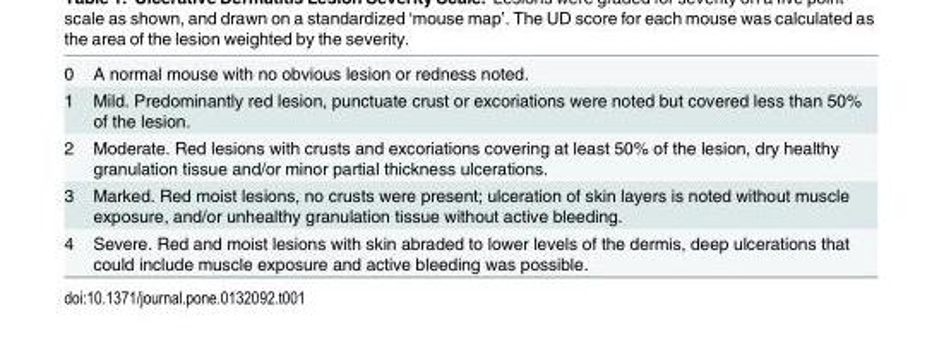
<table><tbody><tr><td>0</td><td>A normal mouse with no obvious lesion or redness noted.</td></tr><tr><td>1</td><td>Mild. Predominantly red lesion, punctuate crust or excoriations were noted but covered less than 50% of the lesion.</td></tr><tr><td>2</td><td>Moderate. Red lesions with crusts and excoriations covering at least 50% of the lesion, dry healthy granulation tissue and/or minor partial thickness ulcerations.</td></tr><tr><td>3</td><td>Marked. Red moist lesions, no crusts were present; ulceration of skin layers is noted without muscle exposure, and/or unhealthy granulation tissue without active bleeding.</td></tr><tr><td>4</td><td>Severe. Red and moist lesions with skin abraded to lower levels of the dermis, deep ulcerations that could include muscle exposure and active bleeding was possible.</td></tr></tbody></table>